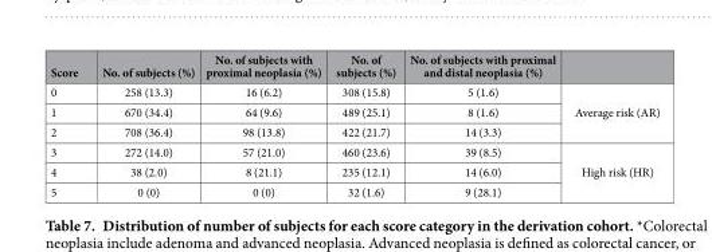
<table><thead><tr><td>Score</td><td>No. of subjects (%)</td><td>No. of subjects with proximal neoplasia (%)</td><td>No. of subjects (%)</td><td>No. of subjects with proximal and distal neoplasia (%)</td><td></td></tr></thead><tbody><tr><td>0</td><td>258 (13.3)</td><td>16 (6.2)</td><td>308 (15.8)</td><td>5 (1.6)</td><td rowspan="3">Average risk (AR)</td></tr><tr><td>1</td><td>670 (34.4)</td><td>64 (9.6)</td><td>489 (25.1)</td><td>8 (1.6)</td></tr><tr><td>2</td><td>708 (36.4)</td><td>98 (13.8)</td><td>422 (21.7)</td><td>14 (3.3)</td></tr><tr><td>3</td><td>272 (14.0)</td><td>57 (21.0)</td><td>460 (23.6)</td><td>39 (8.5)</td><td rowspan="3">High risk (HR)</td></tr><tr><td>4</td><td>38 (2.0)</td><td>8 (21.1)</td><td>235 (12.1)</td><td>14 (6.0)</td></tr><tr><td>5</td><td>0 (0)</td><td>0 (0)</td><td>32 (1.6)</td><td>9 (28.1)</td></tr></tbody></table>